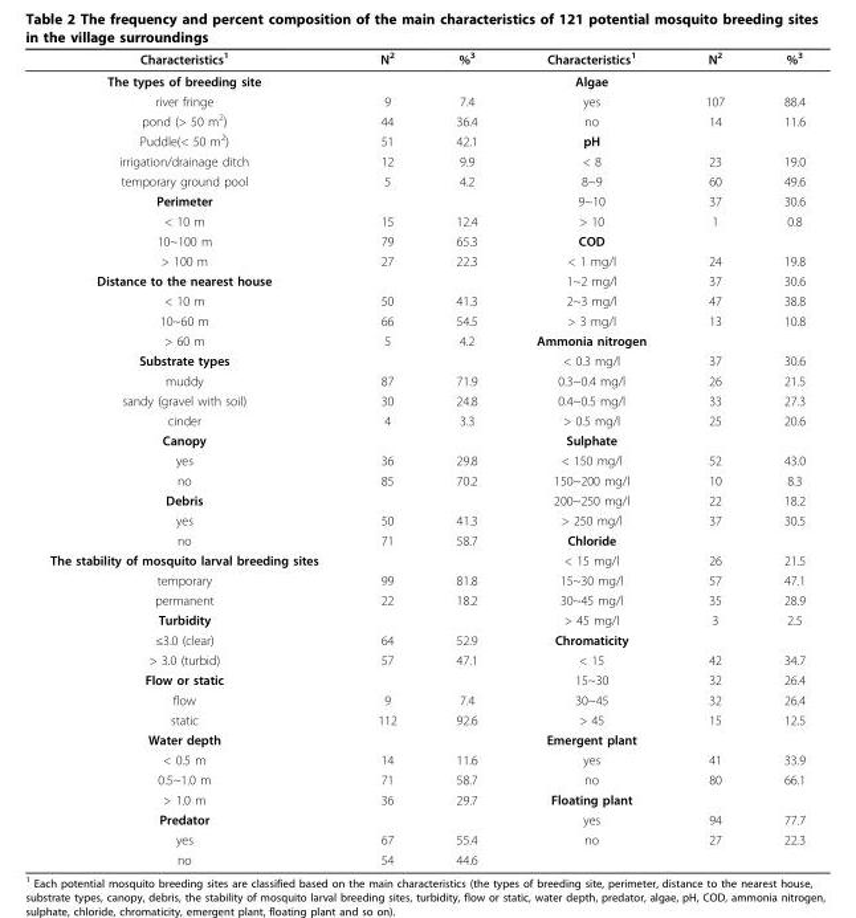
<table><thead><tr><td>Characteristics<sup>1</sup></td><td>N<sup>2</sup></td><td>%<sup>3</sup></td><td>Characteristics<sup>1</sup></td><td>N<sup>2</sup></td><td>%<sup>3</sup></td></tr></thead><tbody><tr><td>The types of breeding site</td><td></td><td></td><td>Algae</td><td></td><td></td></tr><tr><td>river fringe</td><td>9</td><td>7.4</td><td>yes</td><td>107</td><td>88.4</td></tr><tr><td>pond (&gt; 50 m<sup>2</sup>)</td><td>44</td><td>36.4</td><td>no</td><td>14</td><td>11.6</td></tr><tr><td>Puddle(&lt; 50 m<sup>2</sup>)</td><td>51</td><td>42.1</td><td>pH</td><td></td><td></td></tr><tr><td>irrigation/drainage ditch</td><td>12</td><td>9.9</td><td>&lt; 8</td><td>23</td><td>19.0</td></tr><tr><td>temporary ground pool</td><td>5</td><td>4.2</td><td>8~9</td><td>60</td><td>49.6</td></tr><tr><td>Perimeter</td><td></td><td></td><td>9~10</td><td>37</td><td>30.6</td></tr><tr><td>&lt; 10 m</td><td>15</td><td>12.4</td><td>&gt; 10</td><td>1</td><td>0.8</td></tr><tr><td>10~100 m</td><td>79</td><td>65.3</td><td>COD</td><td></td><td></td></tr><tr><td>&gt; 100 m</td><td>27</td><td>22.3</td><td>&lt; 1 mg/l</td><td>24</td><td>19.8</td></tr><tr><td>Distance to the nearest house</td><td></td><td></td><td>1~2 mg/l</td><td>37</td><td>30.6</td></tr><tr><td>&lt; 10 m</td><td>50</td><td>41.3</td><td>2~3 mg/l</td><td>47</td><td>38.8</td></tr><tr><td>10~60 m</td><td>66</td><td>54.5</td><td>&gt; 3 mg/l</td><td>13</td><td>10.8</td></tr><tr><td>&gt; 60 m</td><td>5</td><td>4.2</td><td>Ammonia nitrogen</td><td></td><td></td></tr><tr><td>Substrate types</td><td></td><td></td><td>&lt; 0.3 mg/l</td><td>37</td><td>30.6</td></tr><tr><td>muddy</td><td>87</td><td>71.9</td><td>0.3~0.4 mg/l</td><td>26</td><td>21.5</td></tr><tr><td>sandy (gravel with soil)</td><td>30</td><td>24.8</td><td>0.4~0.5 mg/l</td><td>33</td><td>27.3</td></tr><tr><td>cinder</td><td>4</td><td>3.3</td><td>&gt; 0.5 mg/l</td><td>25</td><td>20.6</td></tr><tr><td>Canopy</td><td></td><td></td><td>Sulphate</td><td></td><td></td></tr><tr><td>yes</td><td>36</td><td>29.8</td><td>&lt; 150 mg/l</td><td>52</td><td>43.0</td></tr><tr><td>no</td><td>85</td><td>70.2</td><td>150~200 mg/l</td><td>10</td><td>8.3</td></tr><tr><td>Debris</td><td></td><td></td><td>200~250 mg/l</td><td>22</td><td>18.2</td></tr><tr><td>yes</td><td>50</td><td>41.3</td><td>&gt; 250 mg/l</td><td>37</td><td>30.5</td></tr><tr><td>no</td><td>71</td><td>58.7</td><td>Chloride</td><td></td><td></td></tr><tr><td>The stability of mosquito larval breeding sites</td><td></td><td></td><td>&lt; 15 mg/l</td><td>26</td><td>21.5</td></tr><tr><td>temporary</td><td>99</td><td>81.8</td><td>15~30 mg/l</td><td>57</td><td>47.1</td></tr><tr><td>permanent</td><td>22</td><td>18.2</td><td>30~45 mg/l</td><td>35</td><td>28.9</td></tr><tr><td>Turbidity</td><td></td><td></td><td>&gt; 45 mg/l</td><td>3</td><td>2.5</td></tr><tr><td>≤3.0 (clear)</td><td>64</td><td>52.9</td><td>Chromaticity</td><td></td><td></td></tr><tr><td>&gt; 3.0 (turbid)</td><td>57</td><td>47.1</td><td>&lt; 15</td><td>42</td><td>34.7</td></tr><tr><td>Flow or static</td><td></td><td></td><td>15~30</td><td>32</td><td>26.4</td></tr><tr><td>flow</td><td>9</td><td>7.4</td><td>30~45</td><td>32</td><td>26.4</td></tr><tr><td>static</td><td>112</td><td>92.6</td><td>&gt; 45</td><td>15</td><td>12.5</td></tr><tr><td>Water depth</td><td></td><td></td><td>Emergent plant</td><td></td><td></td></tr><tr><td>&lt; 0.5 m</td><td>14</td><td>11.6</td><td>yes</td><td>41</td><td>33.9</td></tr><tr><td>0.5~1.0 m</td><td>71</td><td>58.7</td><td>no</td><td>80</td><td>66.1</td></tr><tr><td>&gt; 1.0 m</td><td>36</td><td>29.7</td><td>Floating plant</td><td></td><td></td></tr><tr><td>Predator</td><td></td><td></td><td>yes</td><td>94</td><td>77.7</td></tr><tr><td>yes</td><td>67</td><td>55.4</td><td>no</td><td>27</td><td>22.3</td></tr><tr><td>no</td><td>54</td><td>44.6</td><td></td><td></td><td></td></tr></tbody></table>